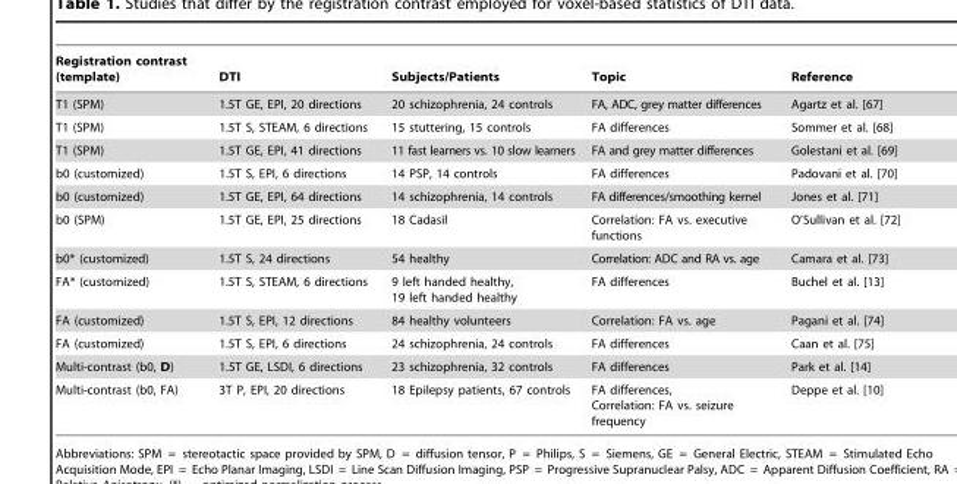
<table><thead><tr><td>Registration contrast (template)</td><td>DTI</td><td>Subjects/Patients</td><td>Topic</td><td>Reference</td></tr></thead><tbody><tr><td>T1 (SPM)</td><td>1.5T GE, EPI, 20 directions</td><td>20 schizophrenia, 24 controls</td><td>FA, ADC, grey matter differences</td><td>Agartz et al. [67]</td></tr><tr><td>T1 (SPM)</td><td>1.5T S, STEAM, 6 directions</td><td>15 stuttering, 15 controls</td><td>FA differences</td><td>Sommer et al. [68]</td></tr><tr><td>T1 (SPM)</td><td>1.5T GE, EPI, 41 directions</td><td>11 fast learners vs. 10 slow learners</td><td>FA and grey matter differences</td><td>Golestani et al. [69]</td></tr><tr><td>b0 (customized)</td><td>1.5T S, EPI, 6 directions</td><td>14 PSP, 14 controls</td><td>FA differences</td><td>Padovani et al. [70]</td></tr><tr><td>b0 (customized)</td><td>1.5T GE, EPI, 64 directions</td><td>14 schizophrenia, 14 controls</td><td>FA differences/smoothing kernel</td><td>Jones et al. [71]</td></tr><tr><td>b0 (SPM)</td><td>1.5T GE, EPI, 25 directions</td><td>18 Cadasil</td><td>Correlation: FA vs. executive functions</td><td>O’Sullivan et al. [72]</td></tr><tr><td>b0* (customized)</td><td>1.5T S, 24 directions</td><td>54 healthy</td><td>Correlation: ADC and RA vs. age</td><td>Camara et al. [73]</td></tr><tr><td>FA* (customized)</td><td>1.5T S, STEAM, 6 directions</td><td>9 left handed healthy, 19 left handed healthy</td><td>FA differences</td><td>Buchel et al. [13]</td></tr><tr><td>FA (customized)</td><td>1.5T S, EPI, 12 directions</td><td>84 healthy volunteers</td><td>Correlation: FA vs. age</td><td>Pagani et al. [74]</td></tr><tr><td>FA (customized)</td><td>1.5T S, EPI, 6 directions</td><td>24 schizophrenia, 24 controls</td><td>FA differences</td><td>Caan et al. [75]</td></tr><tr><td>Multi-contrast (b0, D)</td><td>1.5T GE, LSDI, 6 directions</td><td>23 schizophrenia, 32 controls</td><td>FA differences</td><td>Park et al. [14]</td></tr><tr><td>Multi-contrast (b0, FA)</td><td>3T P, EPI, 20 directions</td><td>18 Epilepsy patients, 67 controls</td><td>FA differences, Correlation: FA vs. seizure frequency</td><td>Deppe et al. [10]</td></tr></tbody></table>